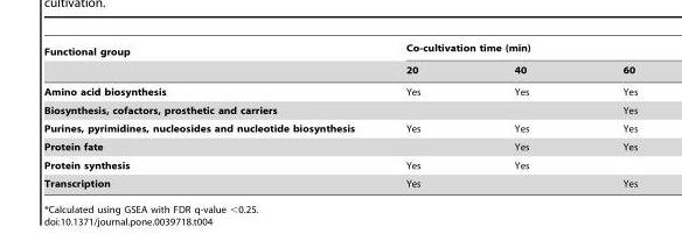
<table><thead><tr><td rowspan="2">Functional group</td><td colspan="3">Co-cultivation time (min)</td></tr><tr><td>20</td><td>40</td><td>60</td></tr></thead><tbody><tr><td>Amino acid biosynthesis</td><td>Yes</td><td>Yes</td><td>Yes</td></tr><tr><td>Biosynthesis, cofactors, prosthetic and carriers</td><td></td><td></td><td>Yes</td></tr><tr><td>Purines, pyrimidines, nucleosides and nucleotide biosynthesis</td><td>Yes</td><td>Yes</td><td>Yes</td></tr><tr><td>Protein fate</td><td></td><td>Yes</td><td>Yes</td></tr><tr><td>Protein synthesis</td><td>Yes</td><td>Yes</td><td></td></tr><tr><td>Transcription</td><td>Yes</td><td></td><td>Yes</td></tr></tbody></table>